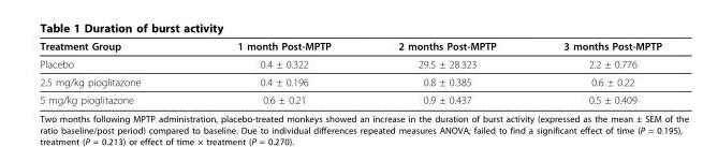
<table><thead><tr><td>Treatment Group</td><td>1 month Post-MPTP</td><td>2 months Post-MPTP</td><td>3 months Post-MPTP</td></tr></thead><tbody><tr><td>Placebo</td><td>0.4 ± 0.322</td><td>29.5 ± 28.323</td><td>2.2 ± 0.776</td></tr><tr><td>2.5 mg/kg pioglitazone</td><td>0.4 ± 0.196</td><td>0.8 ± 0.385</td><td>0.6 ± 0.22</td></tr><tr><td>5 mg/kg pioglitazone</td><td>0.6 ± 0.21</td><td>0.9 ± 0.437</td><td>0.5 ± 0.409</td></tr></tbody></table>